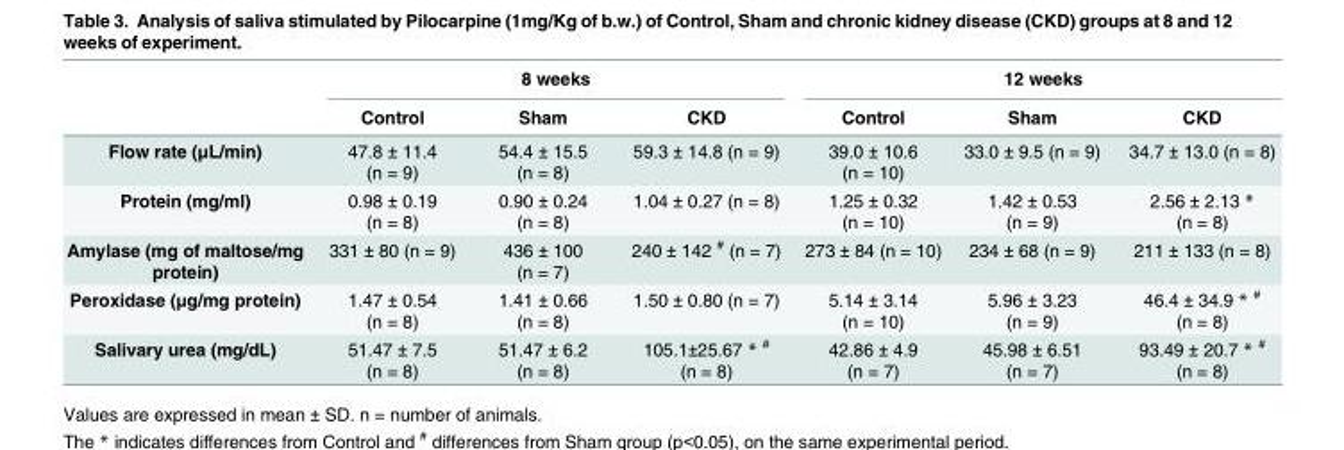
<table><thead><tr><td rowspan="2"></td><td colspan="3">8 weeks</td><td colspan="3">12 weeks</td></tr><tr><td>Control</td><td>Sham</td><td>CKD</td><td>Control</td><td>Sham</td><td>CKD</td></tr></thead><tbody><tr><td>Flow rate (μL/min)</td><td>47.8 ± 11.4 (n = 9)</td><td>54.4 ± 15.5 (n = 8)</td><td>59.3 ± 14.8 (n = 9)</td><td>39.0 ± 10.6 (n = 10)</td><td>33.0 ± 9.5 (n = 9)</td><td>34.7 ± 13.0 (n = 8)</td></tr><tr><td>Protein (mg/ml)</td><td>0.98 ± 0.19 (n = 8)</td><td>0.90 ± 0.24 (n = 8)</td><td>1.04 ± 0.27 (n = 8)</td><td>1.25 ± 0.32 (n = 10)</td><td>1.42 ± 0.53 (n = 9)</td><td>2.56 ± 2.13 * (n = 8)</td></tr><tr><td>Amylase (mg of maltose/mg protein)</td><td>331 ± 80 (n = 9)</td><td>436 ± 100 (n = 7)</td><td>240 ± 142 <sup>#</sup> (n = 7)</td><td>273 ± 84 (n = 10)</td><td>234 ± 68 (n = 9)</td><td>211 ± 133 (n = 8)</td></tr><tr><td>Peroxidase (μg/mg protein)</td><td>1.47 ± 0.54 (n = 8)</td><td>1.41 ± 0.66 (n = 8)</td><td>1.50 ± 0.80 (n = 7)</td><td>5.14 ± 3.14 (n = 10)</td><td>5.96 ± 3.23 (n = 9)</td><td>46.4 ± 34.9 * <sup>#</sup> (n = 8)</td></tr><tr><td>Salivary urea (mg/dL)</td><td>51.47 ± 7.5 (n = 8)</td><td>51.47 ± 6.2 (n = 8)</td><td>105.1±25.67 * <sup>#</sup> (n = 8)</td><td>42.86 ± 4.9 (n = 7)</td><td>45.98 ± 6.51 (n = 7)</td><td>93.49 ± 20.7 * <sup>#</sup> (n = 8)</td></tr></tbody></table>